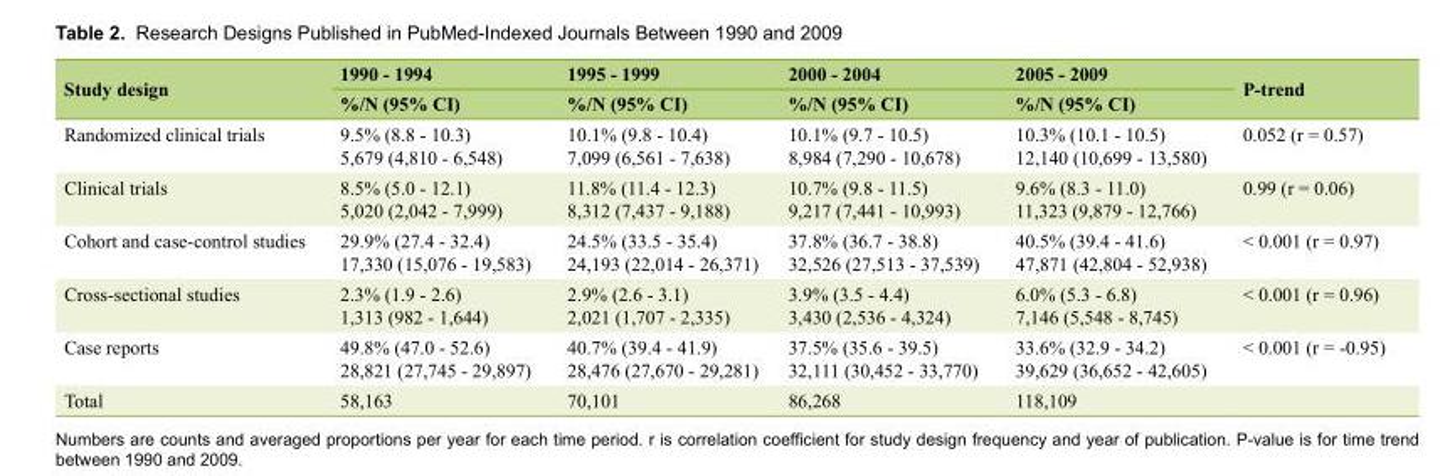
<table><thead><tr><td rowspan="2">Study design</td><td rowspan="2">1990 - 1994 %/N (95% CI)</td><td rowspan="2">1995 - 1999 %/N (95% CI)</td><td rowspan="2">2000 - 2004 %/N (95% CI)</td><td rowspan="2">2005 - 2009 %/N (95% CI)</td><td rowspan="2">P-trend</td></tr><tr></tr></thead><tbody><tr><td>Randomized clinical trials</td><td>9.5% (8.8 - 10.3) 5,679 (4,810 - 6,548)</td><td>10.1% (9.8 - 10.4) 7,099 (6,561 - 7,638)</td><td>10.1% (9.7 - 10.5) 8,984 (7,290 - 10,678)</td><td>10.3% (10.1 - 10.5) 12,140 (10,699 - 13,580)</td><td>0.052 (r = 0.57)</td></tr><tr><td>Clinical trials</td><td>8.5% (5.0 - 12.1) 5,020 (2,042 - 7,999)</td><td>11.8% (11.4 - 12.3) 8,312 (7,437 - 9,188)</td><td>10.7% (9.8 - 11.5) 9,217 (7,441 - 10,993)</td><td>9.6% (8.3 - 11.0) 11,323 (9,879 - 12,766)</td><td>0.99 (r = 0.06)</td></tr><tr><td>Cohort and case-control studies</td><td>29.9% (27.4 - 32.4) 17,330 (15,076 - 19,583)</td><td>24.5% (33.5 - 35.4) 24,193 (22,014 - 26,371)</td><td>37.8% (36.7 - 38.8) 32,526 (27,513 - 37,539)</td><td>40.5% (39.4 - 41.6) 47,871 (42,804 - 52,938)</td><td>&lt; 0.001 (r = 0.97)</td></tr><tr><td>Cross-sectional studies</td><td>2.3% (1.9 - 2.6) 1,313 (982 - 1,644)</td><td>2.9% (2.6 - 3.1) 2,021 (1,707 - 2,335)</td><td>3.9% (3.5 - 4.4) 3,430 (2,536 - 4,324)</td><td>6.0% (5.3 - 6.8) 7,146 (5,548 - 8,745)</td><td>&lt; 0.001 (r = 0.96)</td></tr><tr><td>Case reports</td><td>49.8% (47.0 - 52.6) 28,821 (27,745 - 29,897)</td><td>40.7% (39.4 - 41.9) 28,476 (27,670 - 29,281)</td><td>37.5% (35.6 - 39.5) 32,111 (30,452 - 33,770)</td><td>33.6% (32.9 - 34.2) 39,629 (36,652 - 42,605)</td><td>&lt; 0.001 (r = -0.95)</td></tr><tr><td>Total</td><td>58,163</td><td>70,101</td><td>86,268</td><td>118,109</td><td></td></tr></tbody></table>